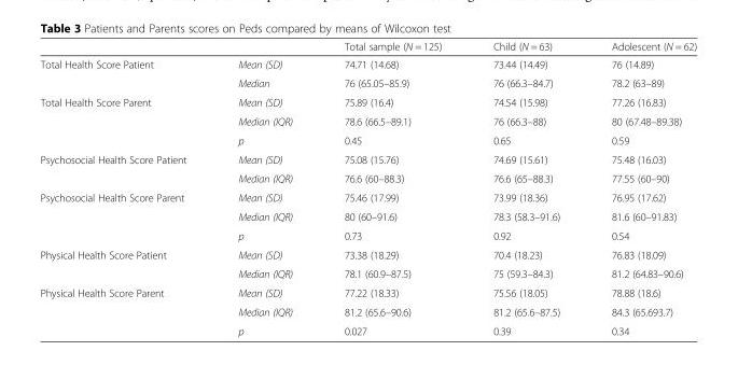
<table><thead><tr><td></td><td></td><td>Total sample (N = 125)</td><td>Child (N = 63)</td><td>Adolescent (N = 62)</td></tr></thead><tbody><tr><td rowspan="2">Total Health Score Patient</td><td>Mean (SD)</td><td>74.71 (14.68)</td><td>73.44 (14.49)</td><td>76 (14.89)</td></tr><tr><td>Median</td><td>76 (65.05–85.9)</td><td>76 (66.3–84.7)</td><td>78.2 (63–89)</td></tr><tr><td rowspan="3">Total Health Score Parent</td><td>Mean (SD)</td><td>75.89 (16.4)</td><td>74.54 (15.98)</td><td>77.26 (16.83)</td></tr><tr><td>Median (IQR)</td><td>78.6 (66.5–89.1)</td><td>76 (66.3–88)</td><td>80 (67.48–89.38)</td></tr><tr><td>p</td><td>0.45</td><td>0.65</td><td>0.59</td></tr><tr><td rowspan="2">Psychosocial Health Score Patient</td><td>Mean (SD)</td><td>75.08 (15.76)</td><td>74.69 (15.61)</td><td>75.48 (16.03)</td></tr><tr><td>Median (IQR)</td><td>76.6 (60–88.3)</td><td>76.6 (65–88.3)</td><td>77.55 (60–90)</td></tr><tr><td rowspan="3">Psychosocial Health Score Parent</td><td>Mean (SD)</td><td>75.46 (17.99)</td><td>73.99 (18.36)</td><td>76.95 (17.62)</td></tr><tr><td>Median (IQR)</td><td>80 (60–91.6)</td><td>78.3 (58.3–91.6)</td><td>81.6 (60–91.83)</td></tr><tr><td>p</td><td>0.73</td><td>0.92</td><td>0.54</td></tr><tr><td rowspan="2">Physical Health Score Patient</td><td>Mean (SD)</td><td>73.38 (18.29)</td><td>70.4 (18.23)</td><td>76.83 (18.09)</td></tr><tr><td>Median (IQR)</td><td>78.1 (60.9–87.5)</td><td>75 (59.3–84.3)</td><td>81.2 (64.83–90.6)</td></tr><tr><td rowspan="3">Physical Health Score Parent</td><td>Mean (SD)</td><td>77.22 (18.33)</td><td>75.56 (18.05)</td><td>78.88 (18.6)</td></tr><tr><td>Median (IQR)</td><td>81.2 (65.6–90.6)</td><td>81.2 (65.6–87.5)</td><td>84.3 (65.693.7)</td></tr><tr><td>p</td><td>0.027</td><td>0.39</td><td>0.34</td></tr></tbody></table>